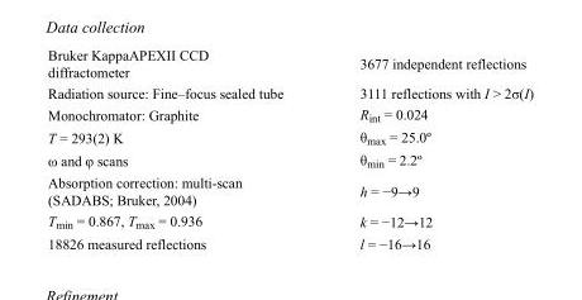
<table><tbody><tr><td>Bruker KappaAPEXII CCD diffractometer</td><td>3677 independent reflections</td></tr><tr><td>Radiation source: Fine–focus sealed tube</td><td>3111 reflections with I &gt; 2σ(I)</td></tr><tr><td>Monochromator: Graphite</td><td>R<sub>int</sub> = 0.024</td></tr><tr><td>T = 293(2) K</td><td>θ<sub>max</sub> = 25.0º</td></tr><tr><td>ω and φ scans</td><td>θ<sub>min</sub> = 2.2º</td></tr><tr><td>Absorption correction: multi-scan (SADABS; Bruker, 2004)</td><td>h = −9→9</td></tr><tr><td>T<sub>min</sub> = 0.867, T<sub>max</sub> = 0.936</td><td>k = −12→12</td></tr><tr><td>18826 measured reflections</td><td>l = −16→16</td></tr></tbody></table>